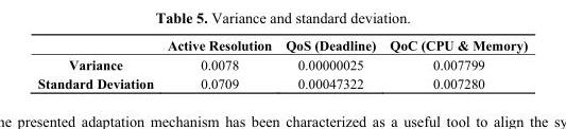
<table><thead><tr><td></td><td>Active Resolution</td><td>QoS (Deadline)</td><td>QoC (CPU &amp; Memory)</td></tr></thead><tbody><tr><td>Variance</td><td>0.0078</td><td>0.00000025</td><td>0.007799</td></tr><tr><td>Standard Deviation</td><td>0.0709</td><td>0.00047322</td><td>0.007280</td></tr></tbody></table>